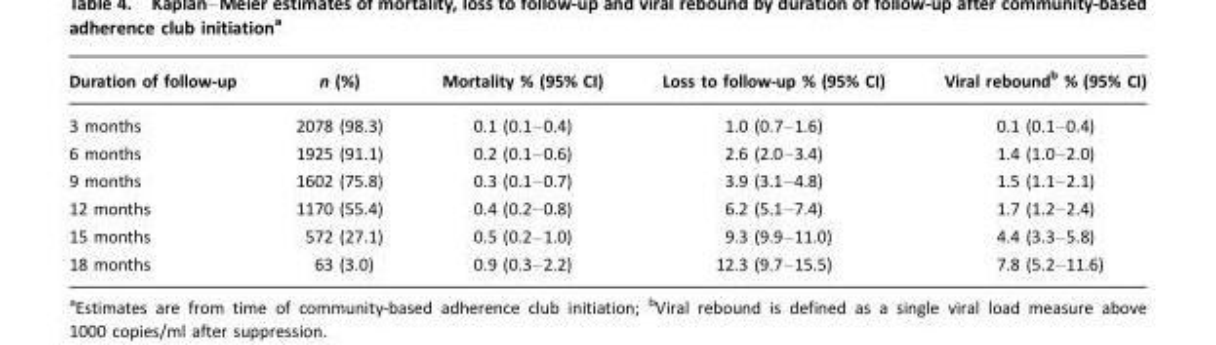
<table><thead><tr><td>Duration of follow-up</td><td>n (%)</td><td>Mortality % (95% CI)</td><td>Loss to follow-up % (95% CI)</td><td>Viral rebound<sup>b</sup> % (95% CI)</td></tr></thead><tbody><tr><td>3 months</td><td>2078 (98.3)</td><td>0.1 (0.1–0.4)</td><td>1.0 (0.7–1.6)</td><td>0.1 (0.1–0.4)</td></tr><tr><td>6 months</td><td>1925 (91.1)</td><td>0.2 (0.1–0.6)</td><td>2.6 (2.0–3.4)</td><td>1.4 (1.0–2.0)</td></tr><tr><td>9 months</td><td>1602 (75.8)</td><td>0.3 (0.1–0.7)</td><td>3.9 (3.1–4.8)</td><td>1.5 (1.1–2.1)</td></tr><tr><td>12 months</td><td>1170 (55.4)</td><td>0.4 (0.2–0.8)</td><td>6.2 (5.1–7.4)</td><td>1.7 (1.2–2.4)</td></tr><tr><td>15 months</td><td>572 (27.1)</td><td>0.5 (0.2–1.0)</td><td>9.3 (9.9–11.0)</td><td>4.4 (3.3–5.8)</td></tr><tr><td>18 months</td><td>63 (3.0)</td><td>0.9 (0.3–2.2)</td><td>12.3 (9.7–15.5)</td><td>7.8 (5.2–11.6)</td></tr></tbody></table>